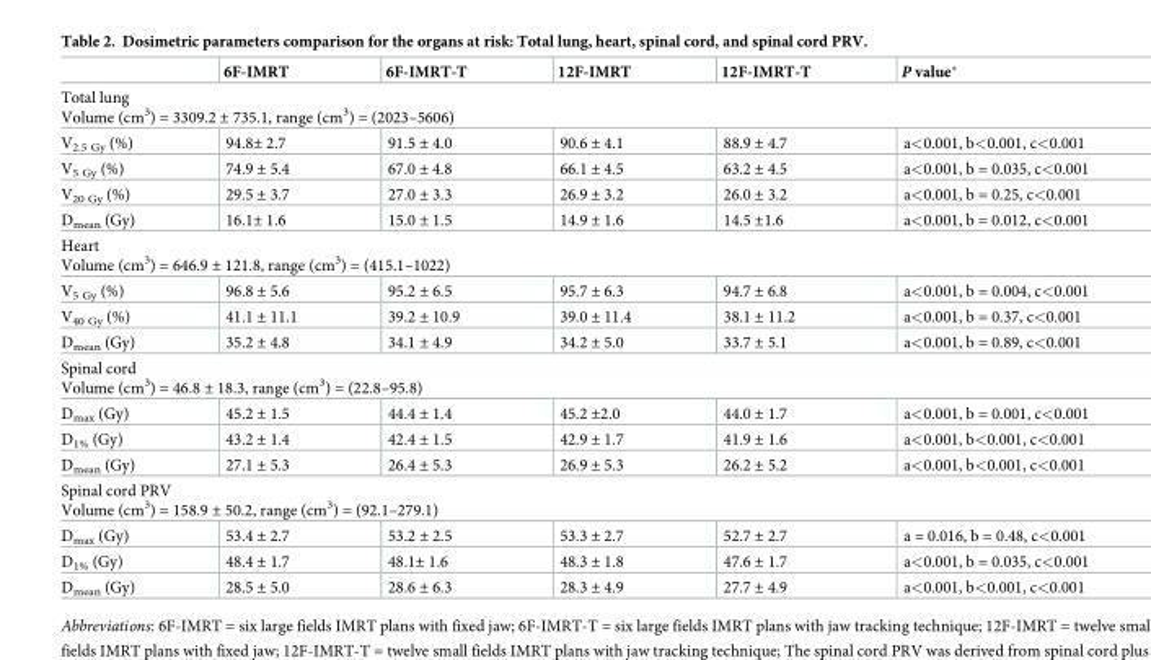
<table><thead><tr><td></td><td>6F-IMRT</td><td>6F-IMRT-T</td><td>12F-IMRT</td><td>12F-IMRT-T</td><td>P value*</td></tr></thead><tbody><tr><td colspan="6">Total lung Volume (cm<sup>3</sup>) = 3309.2 ± 735.1, range (cm<sup>3</sup>) = (2023–5606)</td></tr><tr><td>V<sub>2.5 Gy</sub> (%)</td><td>94.8± 2.7</td><td>91.5 ± 4.0</td><td>90.6 ± 4.1</td><td>88.9 ± 4.7</td><td>a&lt;0.001, b&lt;0.001, c&lt;0.001</td></tr><tr><td>V<sub>5 Gy</sub> (%)</td><td>74.9 ± 5.4</td><td>67.0 ± 4.8</td><td>66.1 ± 4.5</td><td>63.2 ± 4.5</td><td>a&lt;0.001, b = 0.035, c&lt;0.001</td></tr><tr><td>V<sub>20 Gy</sub> (%)</td><td>29.5 ± 3.7</td><td>27.0 ± 3.3</td><td>26.9 ± 3.2</td><td>26.0 ± 3.2</td><td>a&lt;0.001, b = 0.25, c&lt;0.001</td></tr><tr><td>D<sub>mean</sub> (Gy)</td><td>16.1± 1.6</td><td>15.0 ± 1.5</td><td>14.9 ± 1.6</td><td>14.5 ±1.6</td><td>a&lt;0.001, b = 0.012, c&lt;0.001</td></tr><tr><td colspan="6">Heart Volume (cm<sup>3</sup>) = 646.9 ± 121.8, range (cm<sup>3</sup>) = (415.1–1022)</td></tr><tr><td>V<sub>5 Gy</sub> (%)</td><td>96.8 ± 5.6</td><td>95.2 ± 6.5</td><td>95.7 ± 6.3</td><td>94.7 ± 6.8</td><td>a&lt;0.001, b = 0.004, c&lt;0.001</td></tr><tr><td>V<sub>40 Gy</sub> (%)</td><td>41.1 ± 11.1</td><td>39.2 ± 10.9</td><td>39.0 ± 11.4</td><td>38.1 ± 11.2</td><td>a&lt;0.001, b = 0.37, c&lt;0.001</td></tr><tr><td>D<sub>mean</sub> (Gy)</td><td>35.2 ± 4.8</td><td>34.1 ± 4.9</td><td>34.2 ± 5.0</td><td>33.7 ± 5.1</td><td>a&lt;0.001, b = 0.89, c&lt;0.001</td></tr><tr><td colspan="6">Spinal cord Volume (cm<sup>3</sup>) = 46.8 ± 18.3, range (cm<sup>3</sup>) = (22.8–95.8)</td></tr><tr><td>D<sub>max</sub> (Gy)</td><td>45.2 ± 1.5</td><td>44.4 ± 1.4</td><td>45.2 ±2.0</td><td>44.0 ± 1.7</td><td>a&lt;0.001, b = 0.001, c&lt;0.001</td></tr><tr><td>D<sub>1%</sub> (Gy)</td><td>43.2 ± 1.4</td><td>42.4 ± 1.5</td><td>42.9 ± 1.7</td><td>41.9 ± 1.6</td><td>a&lt;0.001, b&lt;0.001, c&lt;0.001</td></tr><tr><td>D<sub>mean</sub> (Gy)</td><td>27.1 ± 5.3</td><td>26.4 ± 5.3</td><td>26.9 ± 5.3</td><td>26.2 ± 5.2</td><td>a&lt;0.001, b&lt;0.001, c&lt;0.001</td></tr><tr><td colspan="6">Spinal cord PRV Volume (cm<sup>3</sup>) = 158.9 ± 50.2, range (cm<sup>3</sup>) = (92.1–279.1)</td></tr><tr><td>D<sub>max</sub> (Gy)</td><td>53.4 ± 2.7</td><td>53.2 ± 2.5</td><td>53.3 ± 2.7</td><td>52.7 ± 2.7</td><td>a = 0.016, b = 0.48, c&lt;0.001</td></tr><tr><td>D<sub>1%</sub> (Gy)</td><td>48.4 ± 1.7</td><td>48.1± 1.6</td><td>48.3 ± 1.8</td><td>47.6 ± 1.7</td><td>a&lt;0.001, b = 0.035, c&lt;0.001</td></tr><tr><td>D<sub>mean</sub> (Gy)</td><td>28.5 ± 5.0</td><td>28.6 ± 6.3</td><td>28.3 ± 4.9</td><td>27.7 ± 4.9</td><td>a&lt;0.001, b&lt;0.001, c&lt;0.001</td></tr></tbody></table>